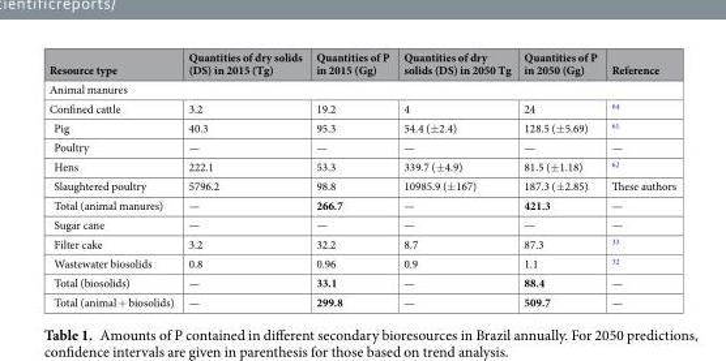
<table><thead><tr><td>Resource type</td><td>Quantities of dry solids (DS) in 2015 (Tg)</td><td>Quantities of P in 2015 (Gg)</td><td>Quantities of dry solids (DS) in 2050 Tg</td><td>Quantities of P in 2050 (Gg)</td><td>Reference</td></tr></thead><tbody><tr><td colspan="6">Animal manures</td></tr><tr><td>Confined cattle</td><td>3.2</td><td>19.2</td><td>4</td><td>24</td><td><sup>64</sup></td></tr><tr><td>Pig</td><td>40.3</td><td>95.3</td><td>54.4 (±2.4)</td><td>128.5 (±5.69)</td><td><sup>61</sup></td></tr><tr><td>Poultry</td><td>—</td><td>—</td><td>—</td><td>—</td><td>—</td></tr><tr><td>Hens</td><td>222.1</td><td>53.3</td><td>339.7 (±4.9)</td><td>81.5 (±1.18)</td><td><sup>62</sup></td></tr><tr><td>Slaughtered poultry</td><td>5796.2</td><td>98.8</td><td>10985.9 (±167)</td><td>187.3 (±2.85)</td><td>These authors</td></tr><tr><td>Total (animal manures)</td><td>—</td><td>266.7</td><td>—</td><td>421.3</td><td>—</td></tr><tr><td>Sugar cane</td><td>—</td><td>—</td><td>—</td><td>—</td><td>—</td></tr><tr><td>Filter cake</td><td>3.2</td><td>32.2</td><td>8.7</td><td>87.3</td><td><sup>33</sup></td></tr><tr><td>Wastewater biosolids</td><td>0.8</td><td>0.96</td><td>0.9</td><td>1.1</td><td><sup>32</sup></td></tr><tr><td>Total (biosolids)</td><td>—</td><td>33.1</td><td>—</td><td>88.4</td><td>—</td></tr><tr><td>Total (animal + biosolids)</td><td>—</td><td>299.8</td><td>—</td><td>509.7</td><td>—</td></tr></tbody></table>